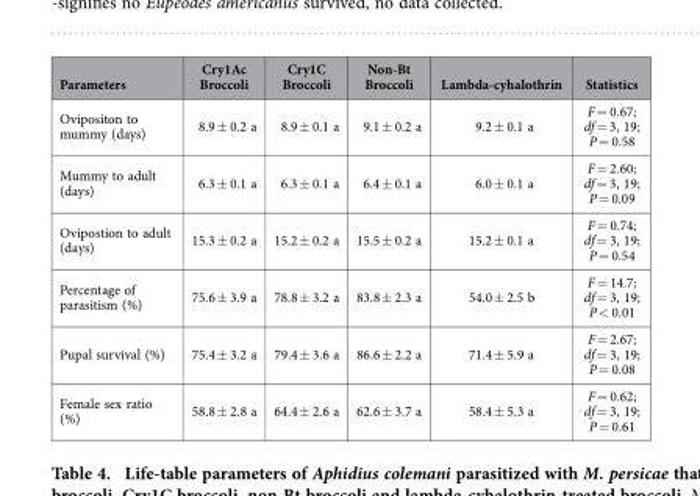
<table><thead><tr><td>Parameters</td><td>Cry1Ac Broccoli</td><td>Cry1C Broccoli</td><td>Non-Bt Broccoli</td><td>Lambda-cyhalothrin</td><td>Statistics</td></tr></thead><tbody><tr><td>Ovipositon to mummy (days)</td><td>8.9 ± 0.2 a</td><td>8.9 ± 0.1 a</td><td>9.1 ± 0.2 a</td><td>9.2 ± 0.1 a</td><td>F = 0.67; df = 3, 19; P = 0.58</td></tr><tr><td>Mummy to adult (days)</td><td>6.3 ± 0.1 a</td><td>6.3 ± 0.1 a</td><td>6.4 ± 0.1 a</td><td>6.0 ± 0.1 a</td><td>F = 2.60; df = 3, 19; P = 0.09</td></tr><tr><td>Ovipostion to adult (days)</td><td>15.3 ± 0.2 a</td><td>15.2 ± 0.2 a</td><td>15.5 ± 0.2 a</td><td>15.2 ± 0.1 a</td><td>F = 0.74; df = 3, 19; P = 0.54</td></tr><tr><td>Percentage of parasitism (%)</td><td>75.6 ± 3.9 a</td><td>78.8 ± 3.2 a</td><td>83.8 ± 2.3 a</td><td>54.0 ± 2.5 b</td><td>F = 14.7; df = 3, 19; P &lt; 0.01</td></tr><tr><td>Pupal survival (%)</td><td>75.4 ± 3.2 a</td><td>79.4 ± 3.6 a</td><td>86.6 ± 2.2 a</td><td>71.4 ± 5.9 a</td><td>F = 2.67; df = 3, 19; P = 0.08</td></tr><tr><td>Female sex ratio (%)</td><td>58.8 ± 2.8 a</td><td>64.4 ± 2.6 a</td><td>62.6 ± 3.7 a</td><td>58.4 ± 5.3 a</td><td>F = 0.62; df = 3, 19; P = 0.61</td></tr></tbody></table>